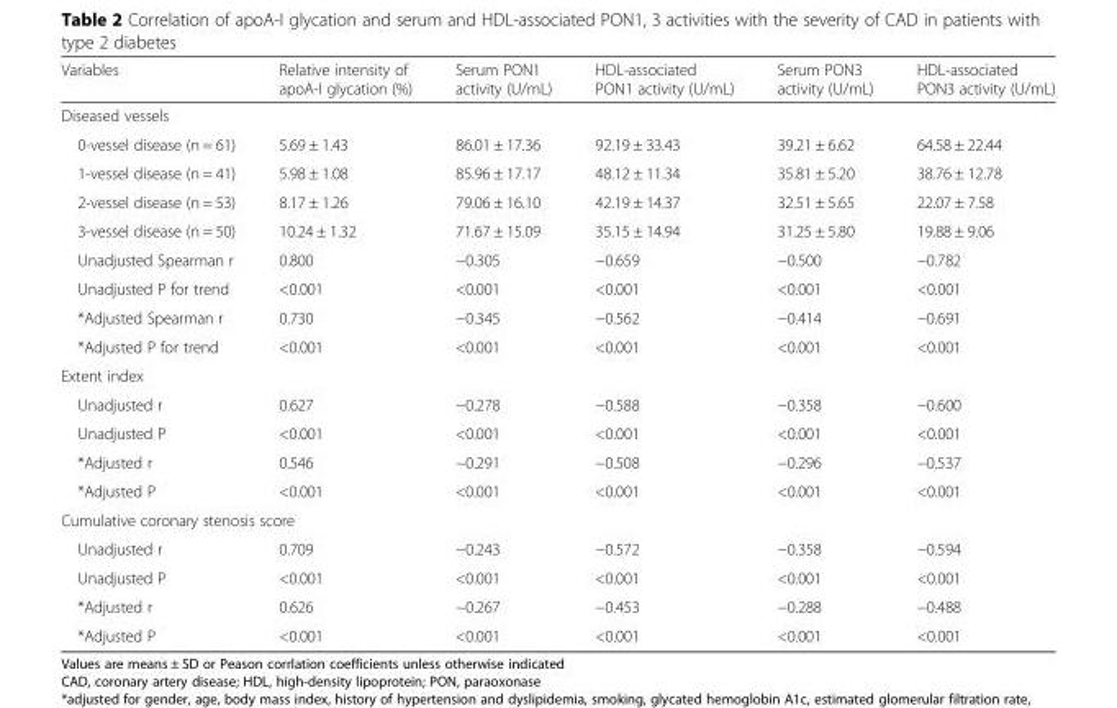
<table><thead><tr><td>Variables</td><td>Relative intensity of apoA-I glycation (%)</td><td>Serum PON1 activity (U/mL)</td><td>HDL-associated PON1 activity (U/mL)</td><td>Serum PON3 activity (U/mL)</td><td>HDL-associated PON3 activity (U/mL)</td></tr></thead><tbody><tr><td colspan="6">Diseased vessels</td></tr><tr><td>0-vessel disease (n = 61)</td><td>5.69 ± 1.43</td><td>86.01 ± 17.36</td><td>92.19 ± 33.43</td><td>39.21 ± 6.62</td><td>64.58 ± 22.44</td></tr><tr><td>1-vessel disease (n = 41)</td><td>5.98 ± 1.08</td><td>85.96 ± 17.17</td><td>48.12 ± 11.34</td><td>35.81 ± 5.20</td><td>38.76 ± 12.78</td></tr><tr><td>2-vessel disease (n = 53)</td><td>8.17 ± 1.26</td><td>79.06 ± 16.10</td><td>42.19 ± 14.37</td><td>32.51 ± 5.65</td><td>22.07 ± 7.58</td></tr><tr><td>3-vessel disease (n = 50)</td><td>10.24 ± 1.32</td><td>71.67 ± 15.09</td><td>35.15 ± 14.94</td><td>31.25 ± 5.80</td><td>19.88 ± 9.06</td></tr><tr><td>Unadjusted Spearman r</td><td>0.800</td><td>−0.305</td><td>−0.659</td><td>−0.500</td><td>−0.782</td></tr><tr><td>Unadjusted P for trend</td><td>&lt;0.001</td><td>&lt;0.001</td><td>&lt;0.001</td><td>&lt;0.001</td><td>&lt;0.001</td></tr><tr><td>*Adjusted Spearman r</td><td>0.730</td><td>−0.345</td><td>−0.562</td><td>−0.414</td><td>−0.691</td></tr><tr><td>*Adjusted P for trend</td><td>&lt;0.001</td><td>&lt;0.001</td><td>&lt;0.001</td><td>&lt;0.001</td><td>&lt;0.001</td></tr><tr><td colspan="6">Extent index</td></tr><tr><td>Unadjusted r</td><td>0.627</td><td>−0.278</td><td>−0.588</td><td>−0.358</td><td>−0.600</td></tr><tr><td>Unadjusted P</td><td>&lt;0.001</td><td>&lt;0.001</td><td>&lt;0.001</td><td>&lt;0.001</td><td>&lt;0.001</td></tr><tr><td>*Adjusted r</td><td>0.546</td><td>−0.291</td><td>−0.508</td><td>−0.296</td><td>−0.537</td></tr><tr><td>*Adjusted P</td><td>&lt;0.001</td><td>&lt;0.001</td><td>&lt;0.001</td><td>&lt;0.001</td><td>&lt;0.001</td></tr><tr><td colspan="6">Cumulative coronary stenosis score</td></tr><tr><td>Unadjusted r</td><td>0.709</td><td>−0.243</td><td>−0.572</td><td>−0.358</td><td>−0.594</td></tr><tr><td>Unadjusted P</td><td>&lt;0.001</td><td>&lt;0.001</td><td>&lt;0.001</td><td>&lt;0.001</td><td>&lt;0.001</td></tr><tr><td>*Adjusted r</td><td>0.626</td><td>−0.267</td><td>−0.453</td><td>−0.288</td><td>−0.488</td></tr><tr><td>*Adjusted P</td><td>&lt;0.001</td><td>&lt;0.001</td><td>&lt;0.001</td><td>&lt;0.001</td><td>&lt;0.001</td></tr></tbody></table>